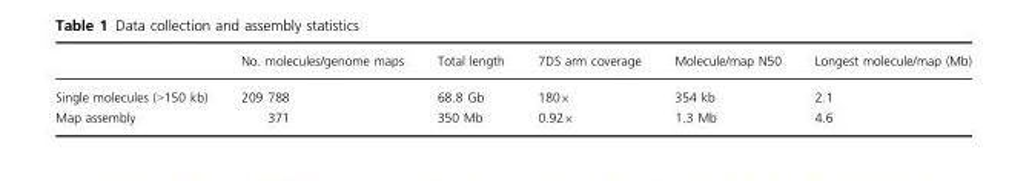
<table><thead><tr><td></td><td>No. molecules/genome maps</td><td>Total length</td><td>7DS arm coverage</td><td>Molecule/map N50</td><td>Longest molecule/map (Mb)</td></tr></thead><tbody><tr><td>Single molecules (&gt;150 kb)</td><td>209 788</td><td>68.8 Gb</td><td>180×</td><td>354 kb</td><td>2.1</td></tr><tr><td>Map assembly</td><td>371</td><td>350 Mb</td><td>0.92×</td><td>1.3 Mb</td><td>4.6</td></tr></tbody></table>